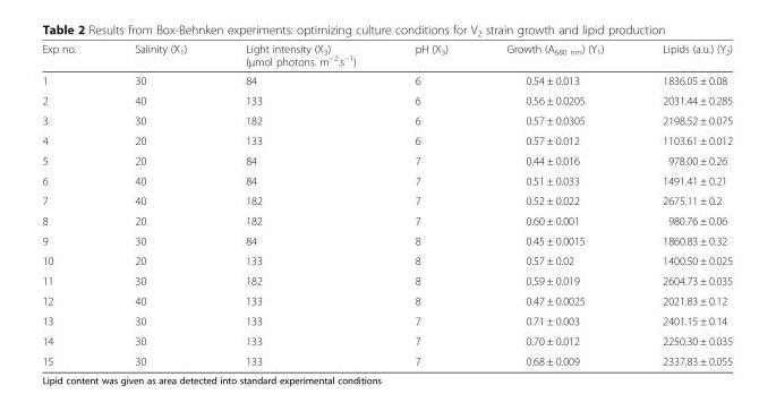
<table><thead><tr><td>Exp no.</td><td>Salinity (X<sub>1</sub>)</td><td>Light intensity (X<sub>3</sub>) (μmol photons. m<sup>−2</sup>.s<sup>−1</sup>)</td><td>pH (X<sub>3</sub>)</td><td>Growth (A<sub>680 nm</sub>) (Y<sub>1</sub>)</td><td>Lipids (a.u.) (Y<sub>2</sub>)</td></tr></thead><tbody><tr><td>1</td><td>30</td><td>84</td><td>6</td><td>0.54 ± 0.013</td><td>1836.05 ± 0.08</td></tr><tr><td>2</td><td>40</td><td>133</td><td>6</td><td>0.56 ± 0.0205</td><td>2031.44 ± 0.285</td></tr><tr><td>3</td><td>30</td><td>182</td><td>6</td><td>0.57 ± 0.0305</td><td>2198.52 ± 0.075</td></tr><tr><td>4</td><td>20</td><td>133</td><td>6</td><td>0.57 ± 0.012</td><td>1103.61 ± 0.012</td></tr><tr><td>5</td><td>20</td><td>84</td><td>7</td><td>0.44 ± 0.016</td><td>978.00 ± 0.26</td></tr><tr><td>6</td><td>40</td><td>84</td><td>7</td><td>0.51 ± 0.033</td><td>1491.41 ± 0.21</td></tr><tr><td>7</td><td>40</td><td>182</td><td>7</td><td>0.52 ± 0.022</td><td>2675.11 ± 0.2</td></tr><tr><td>8</td><td>20</td><td>182</td><td>7</td><td>0.60 ± 0.001</td><td>980.76 ± 0.06</td></tr><tr><td>9</td><td>30</td><td>84</td><td>8</td><td>0.45 ± 0.0015</td><td>1860.83 ± 0.32</td></tr><tr><td>10</td><td>20</td><td>133</td><td>8</td><td>0.57 ± 0.02</td><td>1400.50 ± 0.025</td></tr><tr><td>11</td><td>30</td><td>182</td><td>8</td><td>0.59 ± 0.019</td><td>2604.73 ± 0.035</td></tr><tr><td>12</td><td>40</td><td>133</td><td>8</td><td>0.47 ± 0.0025</td><td>2021.83 ± 0.12</td></tr><tr><td>13</td><td>30</td><td>133</td><td>7</td><td>0.71 ± 0.003</td><td>2401.15 ± 0.14</td></tr><tr><td>14</td><td>30</td><td>133</td><td>7</td><td>0.70 ± 0.012</td><td>2250.30 ± 0.035</td></tr><tr><td>15</td><td>30</td><td>133</td><td>7</td><td>0.68 ± 0.009</td><td>2337.83 ± 0.055</td></tr></tbody></table>